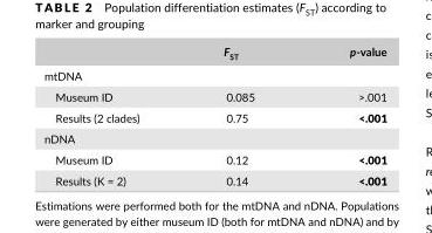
<table><thead><tr><td></td><td>F<sub>ST</sub></td><td>p- value</td></tr></thead><tbody><tr><td colspan="3">mtDNA</td></tr><tr><td>Museum ID</td><td>0.085</td><td>&gt;.001</td></tr><tr><td>Results (2 clades)</td><td>0.75</td><td>&lt;.001</td></tr><tr><td colspan="3">nDNA</td></tr><tr><td>Museum ID</td><td>0.12</td><td>&lt;.001</td></tr><tr><td>Results (K = 2)</td><td>0.14</td><td>&lt;.001</td></tr></tbody></table>